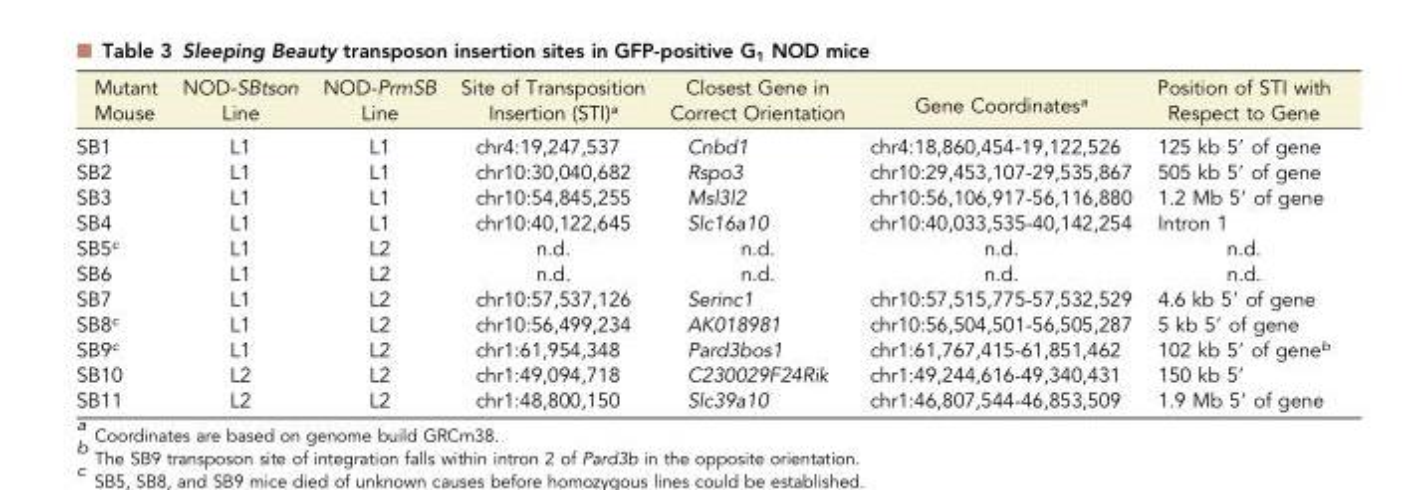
<table><thead><tr><td>Mutant Mouse</td><td>NOD-SBtson Line</td><td>NOD-PrmSB Line</td><td>Site of Transposition Insertion (STI)<sup>a</sup></td><td>Closest Gene in Correct Orientation</td><td>Gene Coordinates<sup>a</sup></td><td>Position of STI with Respect to Gene</td></tr></thead><tbody><tr><td>SB1</td><td>L1</td><td>L1</td><td>chr4:19,247,537</td><td>Cnbd1</td><td>chr4:18,860,454-19,122,526</td><td>125 kb 5′ of gene</td></tr><tr><td>SB2</td><td>L1</td><td>L1</td><td>chr10:30,040,682</td><td>Rspo3</td><td>chr10:29,453,107-29,535,867</td><td>505 kb 5′ of gene</td></tr><tr><td>SB3</td><td>L1</td><td>L1</td><td>chr10:54,845,255</td><td>Msl3l2</td><td>chr10:56,106,917-56,116,880</td><td>1.2 Mb 5′ of gene</td></tr><tr><td>SB4</td><td>L1</td><td>L1</td><td>chr10:40,122,645</td><td>Slc16a10</td><td>chr10:40,033,535-40,142,254</td><td>Intron 1</td></tr><tr><td>SB5<sup>c</sup></td><td>L1</td><td>L2</td><td>n.d.</td><td>n.d.</td><td>n.d.</td><td>n.d.</td></tr><tr><td>SB6</td><td>L1</td><td>L2</td><td>n.d.</td><td>n.d.</td><td>n.d.</td><td>n.d.</td></tr><tr><td>SB7</td><td>L1</td><td>L2</td><td>chr10:57,537,126</td><td>Serinc1</td><td>chr10:57,515,775-57,532,529</td><td>4.6 kb 5′ of gene</td></tr><tr><td>SB8<sup>c</sup></td><td>L1</td><td>L2</td><td>chr10:56,499,234</td><td>AK018981</td><td>chr10:56,504,501-56,505,287</td><td>5 kb 5′ of gene</td></tr><tr><td>SB9<sup>c</sup></td><td>L1</td><td>L2</td><td>chr1:61,954,348</td><td>Pard3bos1</td><td>chr1:61,767,415-61,851,462</td><td>102 kb 5′ of gene<sup>b</sup></td></tr><tr><td>SB10</td><td>L2</td><td>L2</td><td>chr1:49,094,718</td><td>C230029F24Rik</td><td>chr1:49,244,616-49,340,431</td><td>150 kb 5′</td></tr><tr><td>SB11</td><td>L2</td><td>L2</td><td>chr1:48,800,150</td><td>Slc39a10</td><td>chr1:46,807,544-46,853,509</td><td>1.9 Mb 5′ of gene</td></tr></tbody></table>